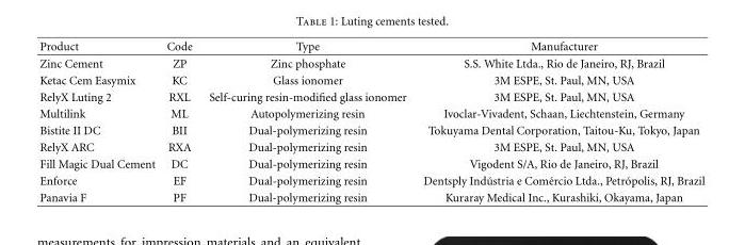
<table><thead><tr><td>Product</td><td>Code</td><td>Type</td><td>Manufacturer</td></tr></thead><tbody><tr><td>Zinc Cement</td><td>ZP</td><td>Zinc phosphate</td><td>S.S. White Ltda., Rio de Janeiro, RJ, Brazil</td></tr><tr><td>Ketac Cem Easymix</td><td>KC</td><td>Glass ionomer</td><td>3M ESPE, St. Paul, MN, USA</td></tr><tr><td>RelyX Luting 2</td><td>RXL</td><td>Self-curing resin-modified glass ionomer</td><td>3M ESPE, St. Paul, MN, USA</td></tr><tr><td>Multilink</td><td>ML</td><td>Autopolymerizing resin</td><td>Ivoclar-Vivadent, Schaan, Liechtenstein, Germany</td></tr><tr><td>Bistite II DC</td><td>BII</td><td>Dual-polymerizing resin</td><td>Tokuyama Dental Corporation, Taitou-Ku, Tokyo, Japan</td></tr><tr><td>RelyX ARC</td><td>RXA</td><td>Dual-polymerizing resin</td><td>3M ESPE, St. Paul, MN, USA</td></tr><tr><td>Fill Magic Dual Cement</td><td>DC</td><td>Dual-polymerizing resin</td><td>Vigodent S/A, Rio de Janeiro, RJ, Brazil</td></tr><tr><td>Enforce</td><td>EF</td><td>Dual-polymerizing resin</td><td>Dentsply Ind´ustria e Com´ercio Ltda., Petr´opolis, RJ, Brazil</td></tr><tr><td>Panavia F</td><td>PF</td><td>Dual-polymerizing resin</td><td>Kuraray Medical Inc., Kurashiki, Okayama, Japan</td></tr></tbody></table>